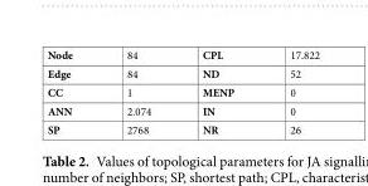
<table><tbody><tr><td>Node</td><td>84</td><td>CPL</td><td>17.822</td></tr><tr><td>Edge</td><td>84</td><td>ND</td><td>52</td></tr><tr><td>CC</td><td>1</td><td>MENP</td><td>0</td></tr><tr><td>ANN</td><td>2.074</td><td>IN</td><td>0</td></tr><tr><td>SP</td><td>2768</td><td>NR</td><td>26</td></tr></tbody></table>